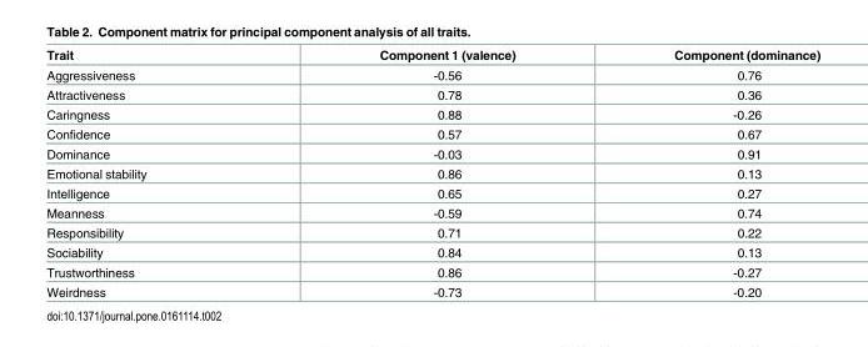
<table><thead><tr><td>Trait</td><td>Component 1 (valence)</td><td>Component (dominance)</td></tr></thead><tbody><tr><td>Aggressiveness</td><td>-0.56</td><td>0.76</td></tr><tr><td>Attractiveness</td><td>0.78</td><td>0.36</td></tr><tr><td>Caringness</td><td>0.88</td><td>-0.26</td></tr><tr><td>Confidence</td><td>0.57</td><td>0.67</td></tr><tr><td>Dominance</td><td>-0.03</td><td>0.91</td></tr><tr><td>Emotional stability</td><td>0.86</td><td>0.13</td></tr><tr><td>Intelligence</td><td>0.65</td><td>0.27</td></tr><tr><td>Meanness</td><td>-0.59</td><td>0.74</td></tr><tr><td>Responsibility</td><td>0.71</td><td>0.22</td></tr><tr><td>Sociability</td><td>0.84</td><td>0.13</td></tr><tr><td>Trustworthiness</td><td>0.86</td><td>-0.27</td></tr><tr><td>Weirdness</td><td>-0.73</td><td>-0.20</td></tr></tbody></table>